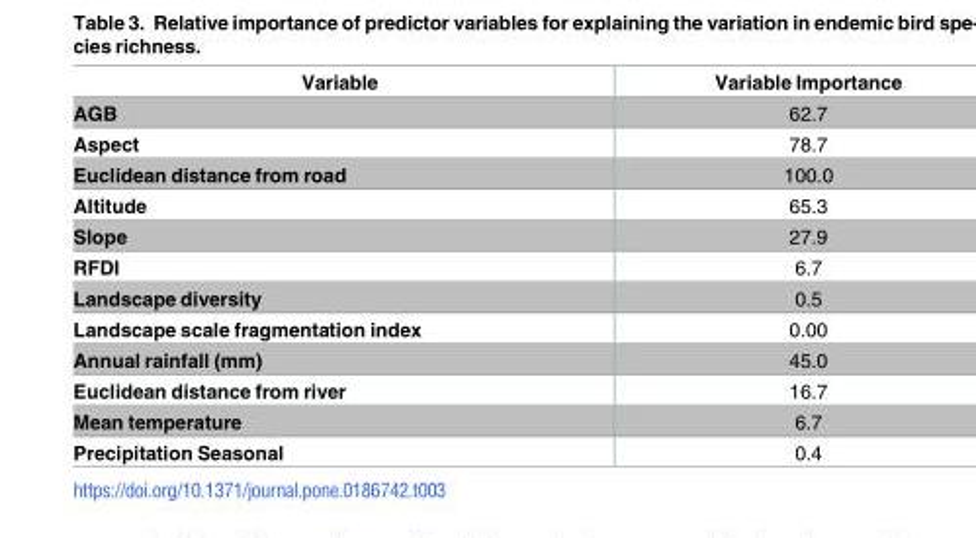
<table><thead><tr><td>Variable</td><td>Variable Importance</td></tr></thead><tbody><tr><td>AGB</td><td>62.7</td></tr><tr><td>Aspect</td><td>78.7</td></tr><tr><td>Euclidean distance from road</td><td>100.0</td></tr><tr><td>Altitude</td><td>65.3</td></tr><tr><td>Slope</td><td>27.9</td></tr><tr><td>RFDI</td><td>6.7</td></tr><tr><td>Landscape diversity</td><td>0.5</td></tr><tr><td>Landscape scale fragmentation index</td><td>0.00</td></tr><tr><td>Annual rainfall (mm)</td><td>45.0</td></tr><tr><td>Euclidean distance from river</td><td>16.7</td></tr><tr><td>Mean temperature</td><td>6.7</td></tr><tr><td>Precipitation Seasonal</td><td>0.4</td></tr></tbody></table>